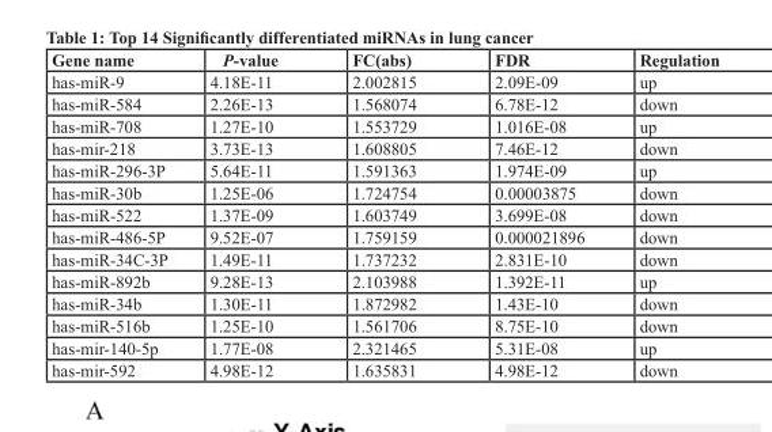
<table><thead><tr><td>Gene name</td><td>P-value</td><td>FC(abs)</td><td>FDR</td><td>Regulation</td></tr></thead><tbody><tr><td>has-miR-9</td><td>4.18E-11</td><td>2.002815</td><td>2.09E-09</td><td>up</td></tr><tr><td>has-miR-584</td><td>2.26E-13</td><td>1.568074</td><td>6.78E-12</td><td>down</td></tr><tr><td>has-miR-708</td><td>1.27E-10</td><td>1.553729</td><td>1.016E-08</td><td>up</td></tr><tr><td>has-mir-218</td><td>3.73E-13</td><td>1.608805</td><td>7.46E-12</td><td>down</td></tr><tr><td>has-miR-296-3P</td><td>5.64E-11</td><td>1.591363</td><td>1.974E-09</td><td>up</td></tr><tr><td>has-miR-30b</td><td>1.25E-06</td><td>1.724754</td><td>0.00003875</td><td>down</td></tr><tr><td>has-miR-522</td><td>1.37E-09</td><td>1.603749</td><td>3.699E-08</td><td>down</td></tr><tr><td>has-miR-486-5P</td><td>9.52E-07</td><td>1.759159</td><td>0.000021896</td><td>down</td></tr><tr><td>has-miR-34C-3P</td><td>1.49E-11</td><td>1.737232</td><td>2.831E-10</td><td>down</td></tr><tr><td>has-miR-892b</td><td>9.28E-13</td><td>2.103988</td><td>1.392E-11</td><td>up</td></tr><tr><td>has-miR-34b</td><td>1.30E-11</td><td>1.872982</td><td>1.43E-10</td><td>down</td></tr><tr><td>has-miR-516b</td><td>1.25E-10</td><td>1.561706</td><td>8.75E-10</td><td>down</td></tr><tr><td>has-mir-140-5p</td><td>1.77E-08</td><td>2.321465</td><td>5.31E-08</td><td>up</td></tr><tr><td>has-mir-592</td><td>4.98E-12</td><td>1.635831</td><td>4.98E-12</td><td>down</td></tr></tbody></table>